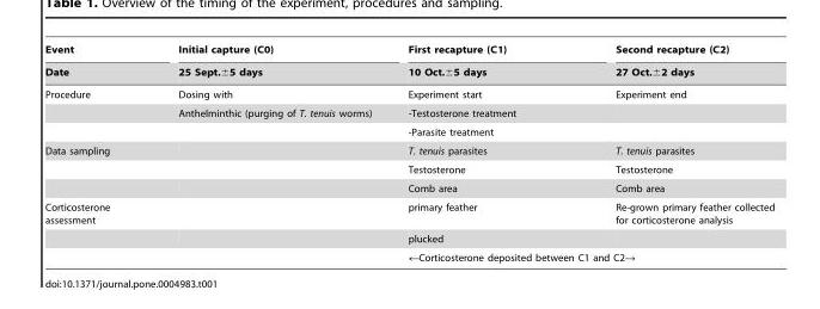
<table><thead><tr><td rowspan="2">Event Date</td><td rowspan="2">Initial capture (C0) 25 Sept.±5 days</td><td rowspan="2">First recapture (C1) 10 Oct.±5 days</td><td rowspan="2">Second recapture (C2) 27 Oct.±2 days</td></tr><tr></tr></thead><tbody><tr><td rowspan="3">Procedure</td><td>Dosing with</td><td>Experiment start</td><td>Experiment end</td></tr><tr><td>Anthelminthic (purging of T. tenuis worms)</td><td>-Testosterone treatment</td><td></td></tr><tr><td></td><td>-Parasite treatment</td><td></td></tr><tr><td rowspan="3">Data sampling</td><td></td><td>T. tenuis parasites</td><td>T. tenuis parasites</td></tr><tr><td></td><td>Testosterone</td><td>Testosterone</td></tr><tr><td></td><td>Comb area</td><td>Comb area</td></tr><tr><td rowspan="3">Corticosterone assessment</td><td></td><td>primary feather</td><td>Re-grown primary feather collected for corticosterone analysis</td></tr><tr><td></td><td>plucked</td><td></td></tr><tr><td></td><td colspan="2">←Corticosterone deposited between C1 and C2→</td></tr></tbody></table>